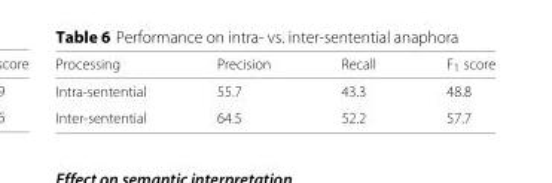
<table><thead><tr><td>Processing</td><td>Precision</td><td>Recall</td><td>F<sub>1</sub> score</td></tr></thead><tbody><tr><td>Intra-sentential</td><td>55.7</td><td>43.3</td><td>48.8</td></tr><tr><td>Inter-sentential</td><td>64.5</td><td>52.2</td><td>57.7</td></tr></tbody></table>